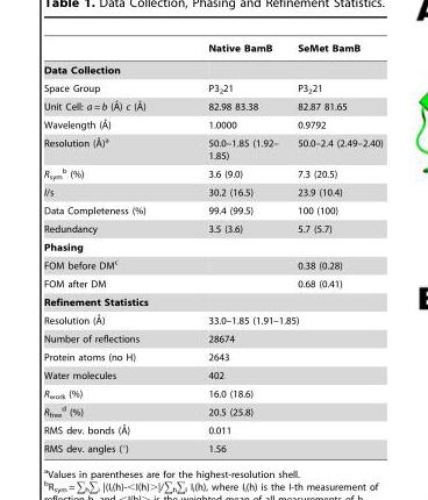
<table><thead><tr><td></td><td>Native BamB</td><td>SeMet BamB</td></tr></thead><tbody><tr><td colspan="3">Data Collection</td></tr><tr><td>Space Group</td><td>P3<sub>2</sub>21</td><td>P3<sub>2</sub>21</td></tr><tr><td>Unit Cell: a = b (A˚) c (A˚)</td><td>82.98 83.38</td><td>82.87 81.65</td></tr><tr><td>Wavelength (A˚)</td><td>1.0000</td><td>0.9792</td></tr><tr><td>Resolution (A˚)a</td><td>50.0–1.85 (1.92– 1.85)</td><td>50.0–2.4 (2.49–2.40)</td></tr><tr><td>R<sub>sym</sub> b (%)</td><td>3.6 (9.0)</td><td>7.3 (20.5)</td></tr><tr><td>I/s</td><td>30.2 (16.5)</td><td>23.9 (10.4)</td></tr><tr><td>Data Completeness (%)</td><td>99.4 (99.5)</td><td>100 (100)</td></tr><tr><td>Redundancy</td><td>3.5 (3.6)</td><td>5.7 (5.7)</td></tr><tr><td colspan="3">Phasing</td></tr><tr><td>FOM before DM<sup>c</sup></td><td></td><td>0.38 (0.28)</td></tr><tr><td>FOM after DM</td><td></td><td>0.68 (0.41)</td></tr><tr><td colspan="3">Refinement Statistics</td></tr><tr><td>Resolution (A˚)</td><td colspan="2">33.0–1.85 (1.91–1.85)</td></tr><tr><td>Number of reflections</td><td colspan="2">28674</td></tr><tr><td>Protein atoms (no H)</td><td colspan="2">2643</td></tr><tr><td>Water molecules</td><td colspan="2">402</td></tr><tr><td>R<sub>work</sub> (%)</td><td colspan="2">16.0 (18.6)</td></tr><tr><td>R<sub>free</sub> d (%)</td><td colspan="2">20.5 (25.8)</td></tr><tr><td>RMS dev. bonds (A˚)</td><td colspan="2">0.011</td></tr><tr><td>RMS dev. angles (°)</td><td colspan="2">1.56</td></tr></tbody></table>